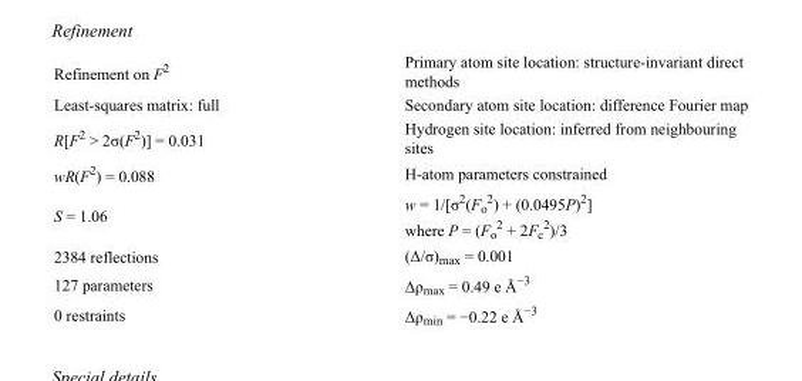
<table><tbody><tr><td>Refinement on F<sup>2</sup></td><td>Primary atom site location: structure-invariant direct methods</td></tr><tr><td>Least-squares matrix: full</td><td>Secondary atom site location: difference Fourier map</td></tr><tr><td>R[F<sup>2</sup> &gt; 2σ(F<sup>2</sup>)] = 0.031</td><td>Hydrogen site location: inferred from neighbouring sites</td></tr><tr><td>wR(F<sup>2</sup>) = 0.088</td><td>H-atom parameters constrained</td></tr><tr><td>S = 1.06</td><td>w = 1/[σ<sup>2</sup>(F<sub>o</sub> <sup>2</sup>) + (0.0495P)<sup>2</sup>] where P = (F<sub>o</sub> <sup>2</sup> + 2F<sub>c</sub> <sup>2</sup>)/3</td></tr><tr><td>2384 reflections</td><td>(Δ/σ)<sub>max</sub> = 0.001</td></tr><tr><td>127 parameters</td><td>Δρ<sub>max</sub> = 0.49 e Å<sup>−3</sup></td></tr><tr><td>0 restraints</td><td>Δρ<sub>min</sub> = −0.22 e Å<sup>−3</sup></td></tr></tbody></table>